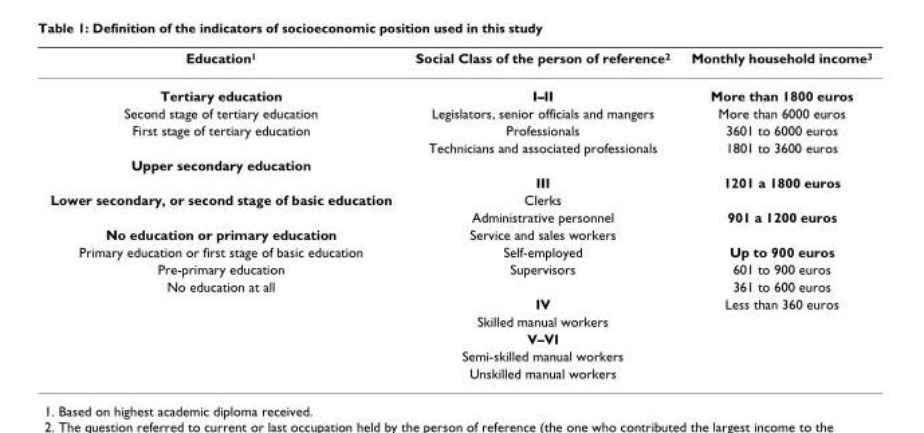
<table><thead><tr><td>Education<sup>1</sup></td><td>Social Class of the person of reference<sup>2</sup></td><td>Monthly household income<sup>3</sup></td></tr></thead><tbody><tr><td>Tertiary education</td><td>I–II</td><td>More than 1800 euros</td></tr><tr><td>Second stage of tertiary education</td><td>Legislators, senior officials and mangers</td><td>More than 6000 euros</td></tr><tr><td rowspan="2">First stage of tertiary education</td><td>Professionals</td><td>3601 to 6000 euros</td></tr><tr><td>Technicians and associated professionals</td><td>1801 to 3600 euros</td></tr><tr><td colspan="3">Upper secondary education</td></tr><tr><td></td><td>III</td><td>1201 a 1800 euros</td></tr><tr><td rowspan="2">Lower secondary, or second stage of basic education</td><td>Clerks</td><td></td></tr><tr><td>Administrative personnel</td><td>901 a 1200 euros</td></tr><tr><td>No education or primary education</td><td>Service and sales workers</td><td></td></tr><tr><td>Primary education or first stage of basic education</td><td>Self-employed</td><td>Up to 900 euros</td></tr><tr><td>Pre-primary education</td><td>Supervisors</td><td>601 to 900 euros</td></tr><tr><td rowspan="6">No education at all</td><td></td><td>361 to 600 euros</td></tr><tr><td>IV</td><td>Less than 360 euros</td></tr><tr><td>Skilled manual workers</td><td></td></tr><tr><td>V–VI</td><td></td></tr><tr><td>Semi-skilled manual workers</td><td></td></tr><tr><td>Unskilled manual workers</td><td></td></tr></tbody></table>